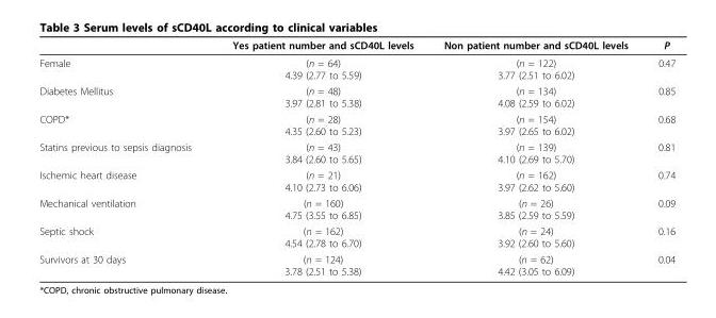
<table><thead><tr><td></td><td>Yes patient number and sCD40L levels</td><td>Non patient number and sCD40L levels</td><td>P</td></tr></thead><tbody><tr><td>Female</td><td>(n = 64) 4.39 (2.77 to 5.59)</td><td>(n = 122) 3.77 (2.51 to 6.02)</td><td>0.47</td></tr><tr><td>Diabetes Mellitus</td><td>(n = 48) 3.97 (2.81 to 5.38)</td><td>(n = 134) 4.08 (2.59 to 6.02)</td><td>0.85</td></tr><tr><td>COPD*</td><td>(n = 28) 4.35 (2.60 to 5.23)</td><td>(n = 154) 3.97 (2.65 to 6.02)</td><td>0.68</td></tr><tr><td>Statins previous to sepsis diagnosis</td><td>(n = 43) 3.84 (2.60 to 5.65)</td><td>(n = 139) 4.10 (2.69 to 5.70)</td><td>0.81</td></tr><tr><td>Ischemic heart disease</td><td>(n = 21) 4.10 (2.73 to 6.06)</td><td>(n = 162) 3.97 (2.62 to 5.60)</td><td>0.74</td></tr><tr><td>Mechanical ventilation</td><td>(n = 160) 4.75 (3.55 to 6.85)</td><td>(n = 26) 3.85 (2.59 to 5.59)</td><td>0.09</td></tr><tr><td>Septic shock</td><td>(n = 162) 4.54 (2.78 to 6.70)</td><td>(n = 24) 3.92 (2.60 to 5.60)</td><td>0.16</td></tr><tr><td>Survivors at 30 days</td><td>(n = 124) 3.78 (2.51 to 5.38)</td><td>(n = 62) 4.42 (3.05 to 6.09)</td><td>0.04</td></tr></tbody></table>